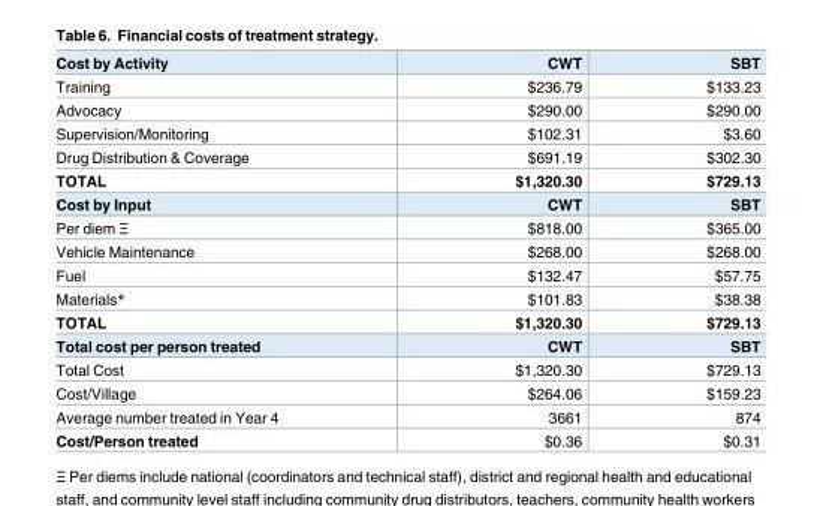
<table><tbody><tr><td>Cost by Activity</td><td>CWT</td><td>SBT</td></tr><tr><td>Training</td><td>$236.79</td><td>$133.23</td></tr><tr><td>Advocacy</td><td>$290.00</td><td>$290.00</td></tr><tr><td>Supervision/Monitoring</td><td>$102.31</td><td>$3.60</td></tr><tr><td>Drug Distribution &amp; Coverage</td><td>$691.19</td><td>$302.30</td></tr><tr><td>TOTAL</td><td>$1,320.30</td><td>$729.13</td></tr><tr><td>Cost by Input</td><td>CWT</td><td>SBT</td></tr><tr><td>Per diem Ξ</td><td>$818.00</td><td>$365.00</td></tr><tr><td>Vehicle Maintenance</td><td>$268.00</td><td>$268.00</td></tr><tr><td>Fuel</td><td>$132.47</td><td>$57.75</td></tr><tr><td>Materials*</td><td>$101.83</td><td>$38.38</td></tr><tr><td>TOTAL</td><td>$1,320.30</td><td>$729.13</td></tr><tr><td>Total cost per person treated</td><td>CWT</td><td>SBT</td></tr><tr><td>Total Cost</td><td>$1,320.30</td><td>$729.13</td></tr><tr><td>Cost/Village</td><td>$264.06</td><td>$159.23</td></tr><tr><td>Average number treated in Year 4</td><td>3661</td><td>874</td></tr><tr><td>Cost/Person treated</td><td>$0.36</td><td>$0.31</td></tr></tbody></table>